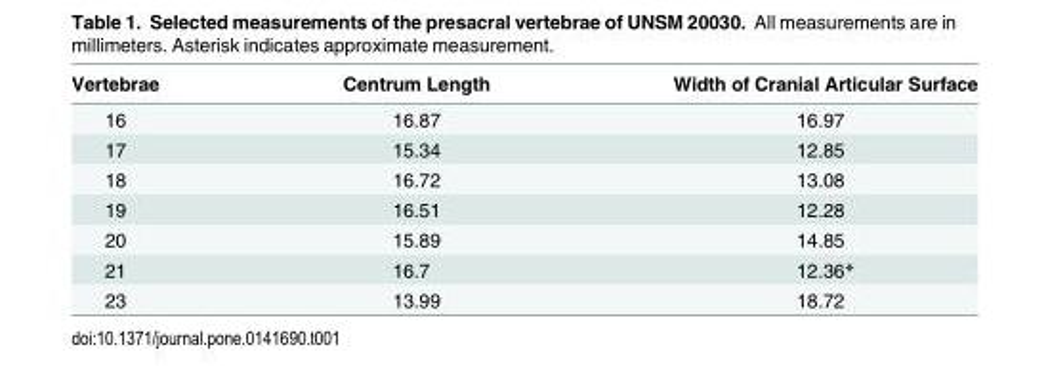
<table><thead><tr><td>Vertebrae</td><td>Centrum Length</td><td>Width of Cranial Articular Surface</td></tr></thead><tbody><tr><td>16</td><td>16.87</td><td>16.97</td></tr><tr><td>17</td><td>15.34</td><td>12.85</td></tr><tr><td>18</td><td>16.72</td><td>13.08</td></tr><tr><td>19</td><td>16.51</td><td>12.28</td></tr><tr><td>20</td><td>15.89</td><td>14.85</td></tr><tr><td>21</td><td>16.7</td><td>12.36*</td></tr><tr><td>23</td><td>13.99</td><td>18.72</td></tr></tbody></table>